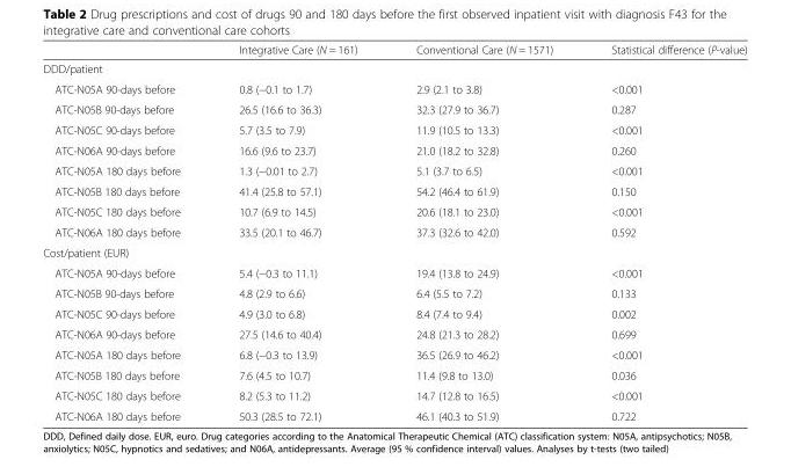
<table><thead><tr><td></td><td>Integrative Care (N = 161)</td><td>Conventional Care (N = 1571)</td><td>Statistical difference (P-value)</td></tr></thead><tbody><tr><td colspan="4">DDD/patient</td></tr><tr><td>ATC-N05A 90-days before</td><td>0.8 (−0.1 to 1.7)</td><td>2.9 (2.1 to 3.8)</td><td>&lt;0.001</td></tr><tr><td>ATC-N05B 90-days before</td><td>26.5 (16.6 to 36.3)</td><td>32.3 (27.9 to 36.7)</td><td>0.287</td></tr><tr><td>ATC-N05C 90-days before</td><td>5.7 (3.5 to 7.9)</td><td>11.9 (10.5 to 13.3)</td><td>&lt;0.001</td></tr><tr><td>ATC-N06A 90-days before</td><td>16.6 (9.6 to 23.7)</td><td>21.0 (18.2 to 32.8)</td><td>0.260</td></tr><tr><td>ATC-N05A 180 days before</td><td>1.3 (−0.01 to 2.7)</td><td>5.1 (3.7 to 6.5)</td><td>&lt;0.001</td></tr><tr><td>ATC-N05B 180 days before</td><td>41.4 (25.8 to 57.1)</td><td>54.2 (46.4 to 61.9)</td><td>0.150</td></tr><tr><td>ATC-N05C 180 days before</td><td>10.7 (6.9 to 14.5)</td><td>20.6 (18.1 to 23.0)</td><td>&lt;0.001</td></tr><tr><td>ATC-N06A 180 days before</td><td>33.5 (20.1 to 46.7)</td><td>37.3 (32.6 to 42.0)</td><td>0.592</td></tr><tr><td colspan="4">Cost/patient (EUR)</td></tr><tr><td>ATC-N05A 90-days before</td><td>5.4 (−0.3 to 11.1)</td><td>19.4 (13.8 to 24.9)</td><td>&lt;0.001</td></tr><tr><td>ATC-N05B 90-days before</td><td>4.8 (2.9 to 6.6)</td><td>6.4 (5.5 to 7.2)</td><td>0.133</td></tr><tr><td>ATC-N05C 90-days before</td><td>4.9 (3.0 to 6.8)</td><td>8.4 (7.4 to 9.4)</td><td>0.002</td></tr><tr><td>ATC-N06A 90-days before</td><td>27.5 (14.6 to 40.4)</td><td>24.8 (21.3 to 28.2)</td><td>0.699</td></tr><tr><td>ATC-N05A 180 days before</td><td>6.8 (−0.3 to 13.9)</td><td>36.5 (26.9 to 46.2)</td><td>&lt;0.001</td></tr><tr><td>ATC-N05B 180 days before</td><td>7.6 (4.5 to 10.7)</td><td>11.4 (9.8 to 13.0)</td><td>0.036</td></tr><tr><td>ATC-N05C 180 days before</td><td>8.2 (5.3 to 11.2)</td><td>14.7 (12.8 to 16.5)</td><td>&lt;0.001</td></tr><tr><td>ATC-N06A 180 days before</td><td>50.3 (28.5 to 72.1)</td><td>46.1 (40.3 to 51.9)</td><td>0.722</td></tr></tbody></table>